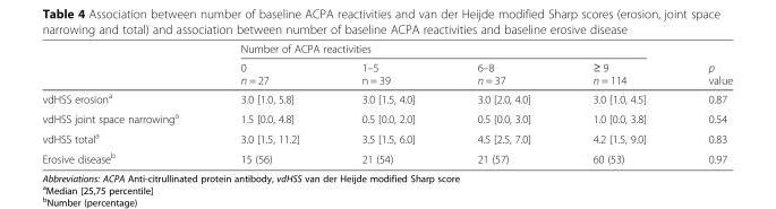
<table><thead><tr><td rowspan="2"></td><td colspan="4">Number of ACPA reactivities</td><td rowspan="2">p value</td></tr><tr><td>0 n = 27</td><td>1–5 n = 39</td><td>6–8 n = 37</td><td>≥ 9 n = 114</td></tr></thead><tbody><tr><td>vdHSS erosion<sup>a</sup></td><td>3.0 [1.0, 5.8]</td><td>3.0 [1.5, 4.0]</td><td>3.0 [2.0, 4.0]</td><td>3.0 [1.0, 4.5]</td><td>0.87</td></tr><tr><td>vdHSS joint space narrowing<sup>a</sup></td><td>1.5 [0.0, 4.8]</td><td>0.5 [0.0, 2.0]</td><td>0.5 [0.0, 3.0]</td><td>1.0 [0.0, 3.8]</td><td>0.54</td></tr><tr><td>vdHSS total<sup>a</sup></td><td>3.0 [1.5, 11.2]</td><td>3.5 [1.5, 6.0]</td><td>4.5 [2.5, 7.0]</td><td>4.2 [1.5, 9.0]</td><td>0.83</td></tr><tr><td>Erosive disease<sup>b</sup></td><td>15 (56)</td><td>21 (54)</td><td>21 (57)</td><td>60 (53)</td><td>0.97</td></tr></tbody></table>